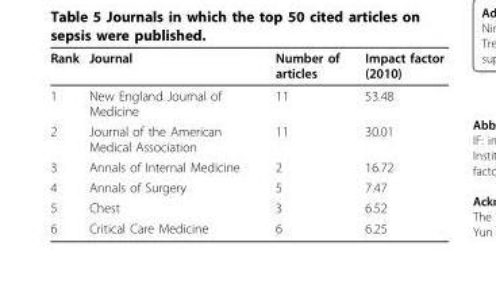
<table><thead><tr><td>Rank</td><td>Journal</td><td>Number of articles</td><td>Impact factor (2010)</td></tr></thead><tbody><tr><td>1</td><td>New England Journal of Medicine</td><td>11</td><td>53.48</td></tr><tr><td>2</td><td>Journal of the American Medical Association</td><td>11</td><td>30.01</td></tr><tr><td>3</td><td>Annals of Internal Medicine</td><td>2</td><td>16.72</td></tr><tr><td>4</td><td>Annals of Surgery</td><td>5</td><td>7.47</td></tr><tr><td>5</td><td>Chest</td><td>3</td><td>6.52</td></tr><tr><td>6</td><td>Critical Care Medicine</td><td>6</td><td>6.25</td></tr></tbody></table>